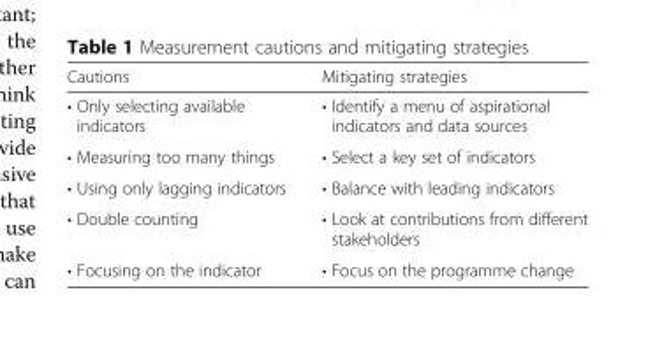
<table><thead><tr><td>Cautions</td><td>Mitigating strategies</td></tr></thead><tbody><tr><td>• Only selecting available indicators</td><td>• Identify a menu of aspirational indicators and data sources</td></tr><tr><td>• Measuring too many things</td><td>• Select a key set of indicators</td></tr><tr><td>• Using only lagging indicators</td><td>• Balance with leading indicators</td></tr><tr><td>• Double counting</td><td>• Look at contributions from different stakeholders</td></tr><tr><td>• Focusing on the indicator</td><td>• Focus on the programme change</td></tr></tbody></table>